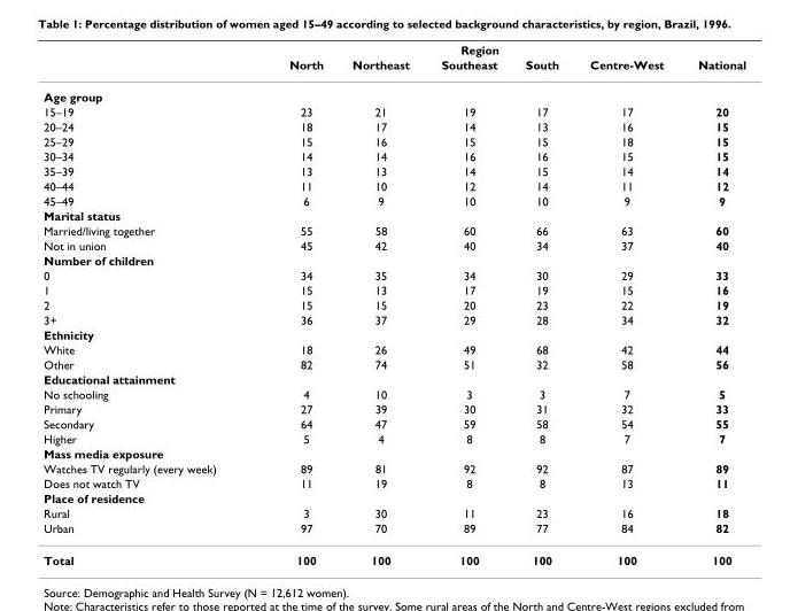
<table><thead><tr><td rowspan="2"></td><td colspan="5">Region</td><td rowspan="2">National</td></tr><tr><td>North</td><td>Northeast</td><td>Southeast</td><td>South</td><td>Centre-West</td></tr></thead><tbody><tr><td colspan="7">Age group</td></tr><tr><td>15–19</td><td>23</td><td>21</td><td>19</td><td>17</td><td>17</td><td>20</td></tr><tr><td>20–24</td><td>18</td><td>17</td><td>14</td><td>13</td><td>16</td><td>15</td></tr><tr><td>25–29</td><td>15</td><td>16</td><td>15</td><td>15</td><td>18</td><td>15</td></tr><tr><td>30–34</td><td>14</td><td>14</td><td>16</td><td>16</td><td>15</td><td>15</td></tr><tr><td>35–39</td><td>13</td><td>13</td><td>14</td><td>15</td><td>14</td><td>14</td></tr><tr><td>40–44</td><td>11</td><td>10</td><td>12</td><td>14</td><td>11</td><td>12</td></tr><tr><td>45–49</td><td>6</td><td>9</td><td>10</td><td>10</td><td>9</td><td>9</td></tr><tr><td colspan="7">Marital status</td></tr><tr><td>Married/living together</td><td>55</td><td>58</td><td>60</td><td>66</td><td>63</td><td>60</td></tr><tr><td>Not in union</td><td>45</td><td>42</td><td>40</td><td>34</td><td>37</td><td>40</td></tr><tr><td colspan="7">Number of children</td></tr><tr><td>0</td><td>34</td><td>35</td><td>34</td><td>30</td><td>29</td><td>33</td></tr><tr><td>1</td><td>15</td><td>13</td><td>17</td><td>19</td><td>15</td><td>16</td></tr><tr><td>2</td><td>15</td><td>15</td><td>20</td><td>23</td><td>22</td><td>19</td></tr><tr><td>3+</td><td>36</td><td>37</td><td>29</td><td>28</td><td>34</td><td>32</td></tr><tr><td colspan="7">Ethnicity</td></tr><tr><td>White</td><td>18</td><td>26</td><td>49</td><td>68</td><td>42</td><td>44</td></tr><tr><td>Other</td><td>82</td><td>74</td><td>51</td><td>32</td><td>58</td><td>56</td></tr><tr><td colspan="7">Educational attainment</td></tr><tr><td>No schooling</td><td>4</td><td>10</td><td>3</td><td>3</td><td>7</td><td>5</td></tr><tr><td>Primary</td><td>27</td><td>39</td><td>30</td><td>31</td><td>32</td><td>33</td></tr><tr><td>Secondary</td><td>64</td><td>47</td><td>59</td><td>58</td><td>54</td><td>55</td></tr><tr><td>Higher</td><td>5</td><td>4</td><td>8</td><td>8</td><td>7</td><td>7</td></tr><tr><td colspan="7">Mass media exposure</td></tr><tr><td>Watches TV regularly (every week)</td><td>89</td><td>81</td><td>92</td><td>92</td><td>87</td><td>89</td></tr><tr><td>Does not watch TV</td><td>11</td><td>19</td><td>8</td><td>8</td><td>13</td><td>11</td></tr><tr><td colspan="7">Place of residence</td></tr><tr><td>Rural</td><td>3</td><td>30</td><td>11</td><td>23</td><td>16</td><td>18</td></tr><tr><td>Urban</td><td>97</td><td>70</td><td>89</td><td>77</td><td>84</td><td>82</td></tr><tr><td>Total</td><td>100</td><td>100</td><td>100</td><td>100</td><td>100</td><td>100</td></tr></tbody></table>